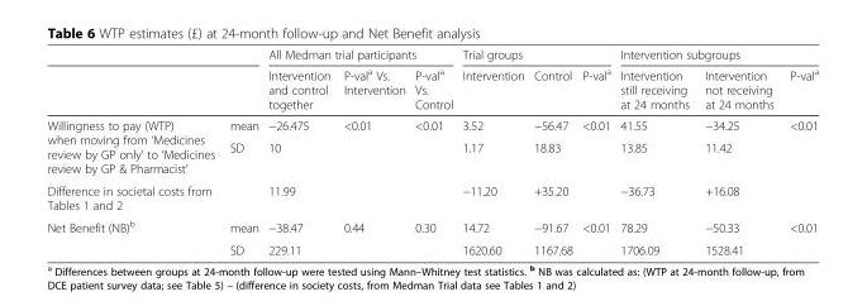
<table><thead><tr><td rowspan="2"></td><td rowspan="2"></td><td colspan="3">All Medman trial participants</td><td colspan="3">Trial groups</td><td colspan="3">Intervention subgroups</td></tr><tr><td>Intervention and control together</td><td>P-val<sup>a</sup> Vs. Intervention</td><td>P-val<sup>a</sup> Vs. Control</td><td>Intervention</td><td>Control</td><td>P-val<sup>a</sup></td><td>Intervention still receiving at 24 months</td><td>Intervention not receiving at 24 months</td><td>P-val<sup>a</sup></td></tr></thead><tbody><tr><td rowspan="2">Willingness to pay (WTP) when moving from ‘Medicines review by GP only’ to ‘Medicines review by GP &amp; Pharmacist’</td><td>mean</td><td>−26.475</td><td>&lt;0.01</td><td>&lt;0.01</td><td>3.52</td><td>−56.47</td><td>&lt;0.01</td><td>41.55</td><td>−34.25</td><td>&lt;0.01</td></tr><tr><td>SD</td><td>10</td><td></td><td></td><td>1.17</td><td>18.83</td><td></td><td>13.85</td><td>11.42</td><td></td></tr><tr><td>Difference in societal costs from Tables 1 and 2</td><td></td><td>11.99</td><td></td><td></td><td>−11.20</td><td>+35.20</td><td></td><td>−36.73</td><td>+16.08</td><td></td></tr><tr><td rowspan="2">Net Benefit (NB)<sup>b</sup></td><td>mean</td><td>−38.47</td><td>0.44</td><td>0.30</td><td>14.72</td><td>−91.67</td><td>&lt;0.01</td><td>78.29</td><td>−50.33</td><td>&lt;0.01</td></tr><tr><td>SD</td><td>229.11</td><td></td><td></td><td>1620.60</td><td>1167.68</td><td></td><td>1706.09</td><td>1528.41</td><td></td></tr></tbody></table>